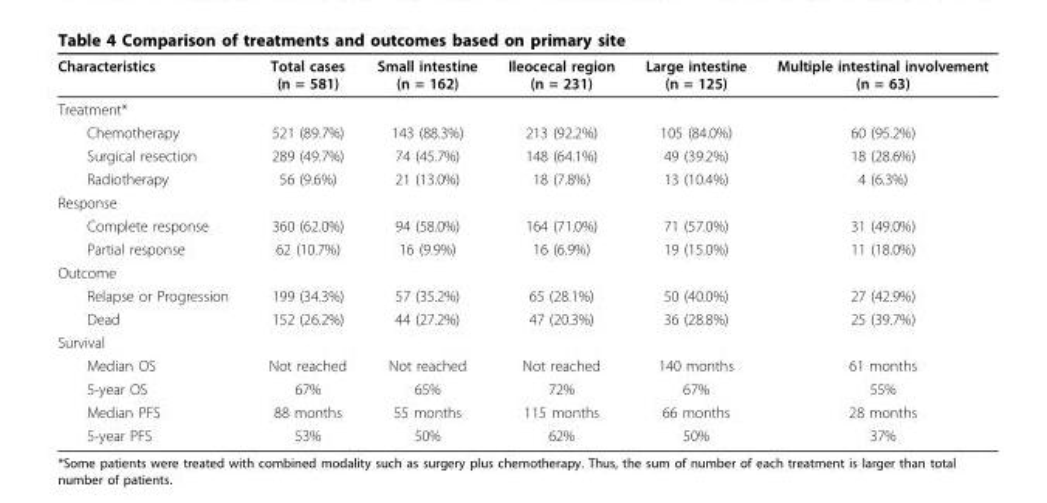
<table><thead><tr><td>Characteristics</td><td>Total cases (n = 581)</td><td>Small intestine (n = 162)</td><td>Ileocecal region (n = 231)</td><td>Large intestine (n = 125)</td><td>Multiple intestinal involvement (n = 63)</td></tr></thead><tbody><tr><td colspan="6">Treatment*</td></tr><tr><td>Chemotherapy</td><td>521 (89.7%)</td><td>143 (88.3%)</td><td>213 (92.2%)</td><td>105 (84.0%)</td><td>60 (95.2%)</td></tr><tr><td>Surgical resection</td><td>289 (49.7%)</td><td>74 (45.7%)</td><td>148 (64.1%)</td><td>49 (39.2%)</td><td>18 (28.6%)</td></tr><tr><td>Radiotherapy</td><td>56 (9.6%)</td><td>21 (13.0%)</td><td>18 (7.8%)</td><td>13 (10.4%)</td><td>4 (6.3%)</td></tr><tr><td colspan="6">Response</td></tr><tr><td>Complete response</td><td>360 (62.0%)</td><td>94 (58.0%)</td><td>164 (71.0%)</td><td>71 (57.0%)</td><td>31 (49.0%)</td></tr><tr><td>Partial response</td><td>62 (10.7%)</td><td>16 (9.9%)</td><td>16 (6.9%)</td><td>19 (15.0%)</td><td>11 (18.0%)</td></tr><tr><td colspan="6">Outcome</td></tr><tr><td>Relapse or Progression</td><td>199 (34.3%)</td><td>57 (35.2%)</td><td>65 (28.1%)</td><td>50 (40.0%)</td><td>27 (42.9%)</td></tr><tr><td>Dead</td><td>152 (26.2%)</td><td>44 (27.2%)</td><td>47 (20.3%)</td><td>36 (28.8%)</td><td>25 (39.7%)</td></tr><tr><td colspan="6">Survival</td></tr><tr><td>Median OS</td><td>Not reached</td><td>Not reached</td><td>Not reached</td><td>140 months</td><td>61 months</td></tr><tr><td>5-year OS</td><td>67%</td><td>65%</td><td>72%</td><td>67%</td><td>55%</td></tr><tr><td>Median PFS</td><td>88 months</td><td>55 months</td><td>115 months</td><td>66 months</td><td>28 months</td></tr><tr><td>5-year PFS</td><td>53%</td><td>50%</td><td>62%</td><td>50%</td><td>37%</td></tr></tbody></table>